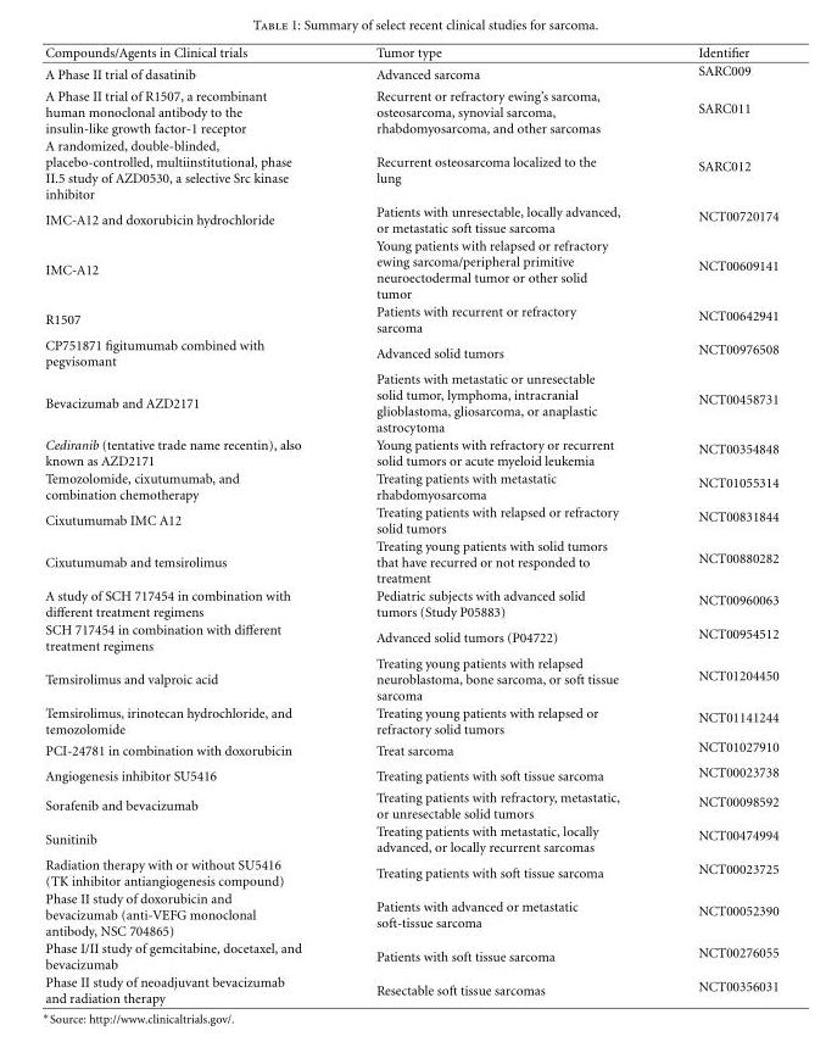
<table><thead><tr><td>Compounds/Agents in Clinical trials</td><td>Tumor type</td><td>Identifier</td></tr></thead><tbody><tr><td>A Phase II trial of dasatinib</td><td>Advanced sarcoma</td><td>SARC009</td></tr><tr><td>A Phase II trial of R1507, a recombinant human monoclonal antibody to the insulin-like growth factor-1 receptor</td><td>Recurrent or refractory ewing’s sarcoma, osteosarcoma, synovial sarcoma, rhabdomyosarcoma, and other sarcomas</td><td>SARC011</td></tr><tr><td>A randomized, double-blinded, placebo-controlled, multiinstitutional, phase II.5 study of AZD0530, a selective Src kinase inhibitor</td><td>Recurrent osteosarcoma localized to the lung</td><td>SARC012</td></tr><tr><td>IMC-A12 and doxorubicin hydrochloride</td><td>Patients with unresectable, locally advanced, or metastatic soft tissue sarcoma</td><td>NCT00720174</td></tr><tr><td>IMC-A12</td><td>Young patients with relapsed or refractory ewing sarcoma/peripheral primitive neuroectodermal tumor or other solid tumor</td><td>NCT00609141</td></tr><tr><td>R1507</td><td>Patients with recurrent or refractory sarcoma</td><td>NCT00642941</td></tr><tr><td>CP751871 figitumumab combined with pegvisomant</td><td>Advanced solid tumors</td><td>NCT00976508</td></tr><tr><td>Bevacizumab and AZD2171</td><td>Patients with metastatic or unresectable solid tumor, lymphoma, intracranial glioblastoma, gliosarcoma, or anaplastic astrocytoma</td><td>NCT00458731</td></tr><tr><td>Cediranib (tentative trade name recentin), also known as AZD2171</td><td>Young patients with refractory or recurrent solid tumors or acute myeloid leukemia</td><td>NCT00354848</td></tr><tr><td>Temozolomide, cixutumumab, and combination chemotherapy</td><td>Treating patients with metastatic rhabdomyosarcoma</td><td>NCT01055314</td></tr><tr><td>Cixutumumab IMC A12</td><td>Treating patients with relapsed or refractory solid tumors</td><td>NCT00831844</td></tr><tr><td>Cixutumumab and temsirolimus</td><td>Treating young patients with solid tumors that have recurred or not responded to treatment</td><td>NCT00880282</td></tr><tr><td>A study of SCH 717454 in combination with different treatment regimens</td><td>Pediatric subjects with advanced solid tumors (Study P05883)</td><td>NCT00960063</td></tr><tr><td>SCH 717454 in combination with different treatment regimens</td><td>Advanced solid tumors (P04722)</td><td>NCT00954512</td></tr><tr><td>Temsirolimus and valproic acid</td><td>Treating young patients with relapsed neuroblastoma, bone sarcoma, or soft tissue sarcoma</td><td>NCT01204450</td></tr><tr><td>Temsirolimus, irinotecan hydrochloride, and temozolomide</td><td>Treating young patients with relapsed or refractory solid tumors</td><td>NCT01141244</td></tr><tr><td>PCI-24781 in combination with doxorubicin</td><td>Treat sarcoma</td><td>NCT01027910</td></tr><tr><td>Angiogenesis inhibitor SU5416</td><td>Treating patients with soft tissue sarcoma</td><td>NCT00023738</td></tr><tr><td>Sorafenib and bevacizumab</td><td>Treating patients with refractory, metastatic, or unresectable solid tumors</td><td>NCT00098592</td></tr><tr><td>Sunitinib</td><td>Treating patients with metastatic, locally advanced, or locally recurrent sarcomas</td><td>NCT00474994</td></tr><tr><td>Radiation therapy with or without SU5416 (TK inhibitor antiangiogenesis compound)</td><td>Treating patients with soft tissue sarcoma</td><td>NCT00023725</td></tr><tr><td>Phase II study of doxorubicin and bevacizumab (anti-VEFG monoclonal antibody, NSC 704865)</td><td>Patients with advanced or metastatic soft-tissue sarcoma</td><td>NCT00052390</td></tr><tr><td>Phase I/II study of gemcitabine, docetaxel, and bevacizumab</td><td>Patients with soft tissue sarcoma</td><td>NCT00276055</td></tr><tr><td>Phase II study of neoadjuvant bevacizumab and radiation therapy</td><td>Resectable soft tissue sarcomas</td><td>NCT00356031</td></tr></tbody></table>